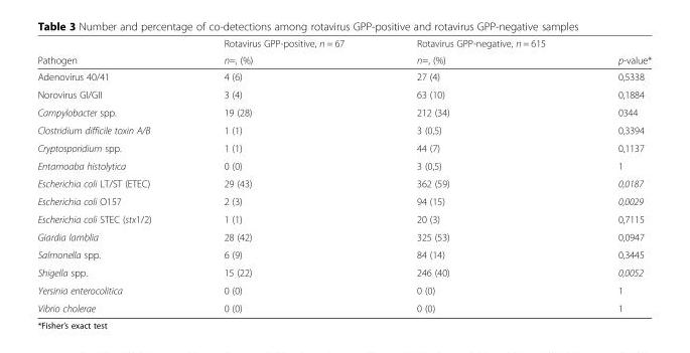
<table><thead><tr><td rowspan="2">Pathogen</td><td rowspan="2">Rotavirus GPP-positive, n = 67 n=, (%)</td><td rowspan="2">Rotavirus GPP-negative, n = 615 n=, (%)</td><td rowspan="2">p-value*</td></tr><tr></tr></thead><tbody><tr><td>Adenovirus 40/41</td><td>4 (6)</td><td>27 (4)</td><td>0,5338</td></tr><tr><td>Norovirus GI/GII</td><td>3 (4)</td><td>63 (10)</td><td>0,1884</td></tr><tr><td>Campylobacter spp.</td><td>19 (28)</td><td>212 (34)</td><td>0344</td></tr><tr><td>Clostridium difficile toxin A/B</td><td>1 (1)</td><td>3 (0,5)</td><td>0,3394</td></tr><tr><td>Cryptosporidium spp.</td><td>1 (1)</td><td>44 (7)</td><td>0,1137</td></tr><tr><td>Entamoaba histolytica</td><td>0 (0)</td><td>3 (0,5)</td><td>1</td></tr><tr><td>Escherichia coli LT/ST (ETEC)</td><td>29 (43)</td><td>362 (59)</td><td>0,0187</td></tr><tr><td>Escherichia coli O157</td><td>2 (3)</td><td>94 (15)</td><td>0,0029</td></tr><tr><td>Escherichia coli STEC (stx1/2)</td><td>1 (1)</td><td>20 (3)</td><td>0,7115</td></tr><tr><td>Giardia lamblia</td><td>28 (42)</td><td>325 (53)</td><td>0,0947</td></tr><tr><td>Salmonella spp.</td><td>6 (9)</td><td>84 (14)</td><td>0,3445</td></tr><tr><td>Shigella spp.</td><td>15 (22)</td><td>246 (40)</td><td>0,0052</td></tr><tr><td>Yersinia enterocolitica</td><td>0 (0)</td><td>0 (0)</td><td>1</td></tr><tr><td>Vibrio cholerae</td><td>0 (0)</td><td>0 (0)</td><td>1</td></tr></tbody></table>